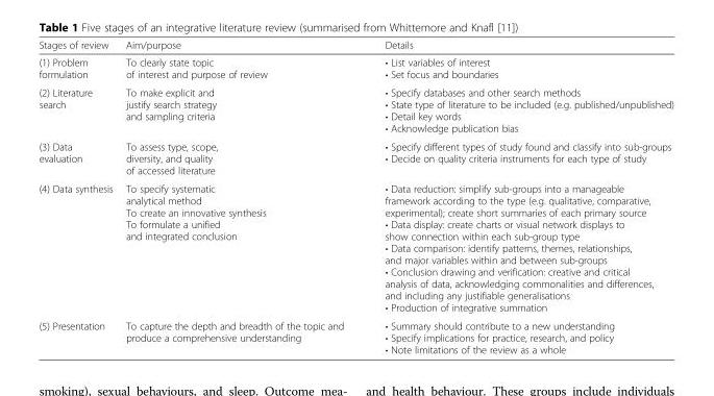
<table><thead><tr><td>Stages of review</td><td>Aim/purpose</td><td>Details</td></tr></thead><tbody><tr><td>(1) Problem formulation</td><td>To clearly state topic of interest and purpose of review</td><td>• List variables of interest • Set focus and boundaries</td></tr><tr><td>(2) Literature search</td><td>To make explicit and justify search strategy and sampling criteria</td><td>• Specify databases and other search methods • State type of literature to be included (e.g. published/unpublished) • Detail key words • Acknowledge publication bias</td></tr><tr><td>(3) Data evaluation</td><td>To assess type, scope, diversity, and quality of accessed literature</td><td>• Specify different types of study found and classify into sub-groups • Decide on quality criteria instruments for each type of study</td></tr><tr><td>(4) Data synthesis</td><td>To specify systematic analytical method To create an innovative synthesis To formulate a unified and integrated conclusion</td><td>• Data reduction: simplify sub-groups into a manageable framework according to the type (e.g. qualitative, comparative, experimental); create short summaries of each primary source • Data display: create charts or visual network displays to show connection within each sub-group type • Data comparison: identify patterns, themes, relationships, and major variables within and between sub-groups • Conclusion drawing and verification: creative and critical analysis of data, acknowledging commonalities and differences, and including any justifiable generalisations • Production of integrative summation</td></tr><tr><td>(5) Presentation</td><td>To capture the depth and breadth of the topic and produce a comprehensive understanding</td><td>• Summary should contribute to a new understanding • Specify implications for practice, research, and policy • Note limitations of the review as a whole</td></tr></tbody></table>